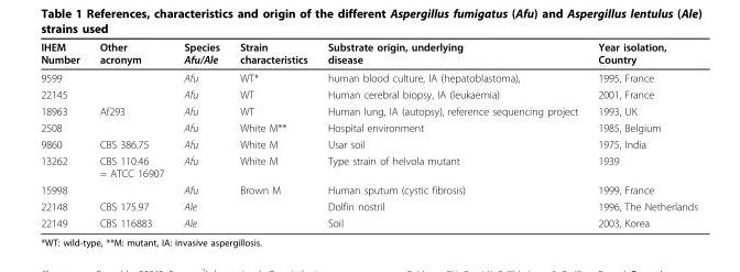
<table><thead><tr><td>IHEM Number</td><td>Other acronym</td><td>Species Afu/Ale</td><td>Strain characteristics</td><td>Substrate origin, underlying disease</td><td>Year isolation, Country</td></tr></thead><tbody><tr><td>9599</td><td></td><td>Afu</td><td>WT*</td><td>human blood culture, IA (hepatoblastoma),</td><td>1995, France</td></tr><tr><td>22145</td><td></td><td>Afu</td><td>WT</td><td>Human cerebral biopsy, IA (leukaemia)</td><td>2001, France</td></tr><tr><td>18963</td><td>Af293</td><td>Afu</td><td>WT</td><td>Human lung, IA (autopsy), reference sequencing project</td><td>1993, UK</td></tr><tr><td>2508</td><td></td><td>Afu</td><td>White M**</td><td>Hospital environment</td><td>1985, Belgium</td></tr><tr><td>9860</td><td>CBS 386.75</td><td>Afu</td><td>White M</td><td>Usar soil</td><td>1975, India</td></tr><tr><td>13262</td><td>CBS 110.46 = ATCC 16907</td><td>Afu</td><td>White M</td><td>Type strain of helvola mutant</td><td>1939</td></tr><tr><td>15998</td><td></td><td>Afu</td><td>Brown M</td><td>Human sputum (cystic fibrosis)</td><td>1999, France</td></tr><tr><td>22148</td><td>CBS 175.97</td><td>Ale</td><td></td><td>Dolfin nostril</td><td>1996, The Netherlands</td></tr><tr><td>22149</td><td>CBS 116883</td><td>Ale</td><td></td><td>Soil</td><td>2003, Korea</td></tr></tbody></table>